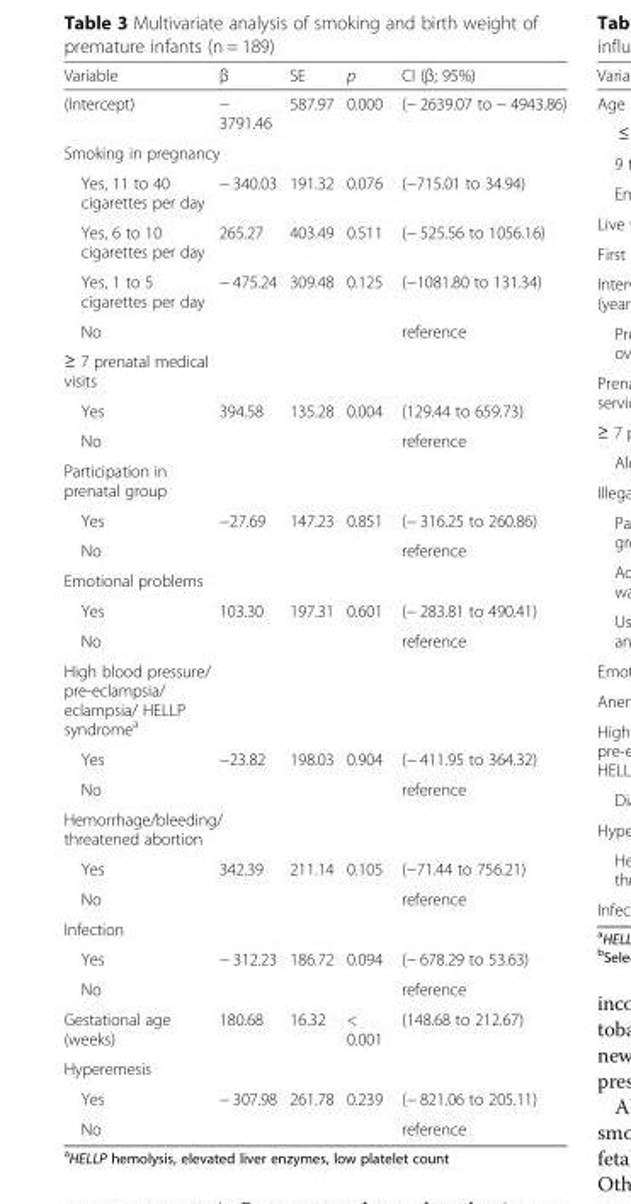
<table><thead><tr><td>Variable</td><td>β</td><td>SE</td><td>p</td><td>CI (β; 95%)</td></tr></thead><tbody><tr><td>(Intercept)</td><td>− 3791.46</td><td>587.97</td><td>0.000</td><td>(− 2639.07 to − 4943.86)</td></tr><tr><td colspan="5">Smoking in pregnancy</td></tr><tr><td>Yes, 11 to 40 cigarettes per day</td><td>− 340.03</td><td>191.32</td><td>0.076</td><td>(−715.01 to 34.94)</td></tr><tr><td>Yes, 6 to 10 cigarettes per day</td><td>265.27</td><td>403.49</td><td>0.511</td><td>(− 525.56 to 1056.16)</td></tr><tr><td>Yes, 1 to 5 cigarettes per day</td><td>− 475.24</td><td>309.48</td><td>0.125</td><td>(−1081.80 to 131.34)</td></tr><tr><td>No</td><td></td><td></td><td></td><td>reference</td></tr><tr><td colspan="5">≥ 7 prenatal medical visits</td></tr><tr><td>Yes</td><td>394.58</td><td>135.28</td><td>0.004</td><td>(129.44 to 659.73)</td></tr><tr><td>No</td><td></td><td></td><td></td><td>reference</td></tr><tr><td colspan="5">Participation in prenatal group</td></tr><tr><td>Yes</td><td>−27.69</td><td>147.23</td><td>0.851</td><td>(− 316.25 to 260.86)</td></tr><tr><td>No</td><td></td><td></td><td></td><td>reference</td></tr><tr><td colspan="5">Emotional problems</td></tr><tr><td>Yes</td><td>103.30</td><td>197.31</td><td>0.601</td><td>(− 283.81 to 490.41)</td></tr><tr><td>No</td><td></td><td></td><td></td><td>reference</td></tr><tr><td colspan="5">High blood pressure/ pre-eclampsia/ eclampsia/ HELLP syndrome<sup>a</sup></td></tr><tr><td>Yes</td><td>−23.82</td><td>198.03</td><td>0.904</td><td>(− 411.95 to 364.32)</td></tr><tr><td>No</td><td></td><td></td><td></td><td>reference</td></tr><tr><td colspan="5">Hemorrhage/bleeding/ threatened abortion</td></tr><tr><td>Yes</td><td>342.39</td><td>211.14</td><td>0.105</td><td>(−71.44 to 756.21)</td></tr><tr><td>No</td><td></td><td></td><td></td><td>reference</td></tr><tr><td colspan="5">Infection</td></tr><tr><td>Yes</td><td>− 312.23</td><td>186.72</td><td>0.094</td><td>(− 678.29 to 53.63)</td></tr><tr><td>No</td><td></td><td></td><td></td><td>reference</td></tr><tr><td>Gestational age (weeks)</td><td>180.68</td><td>16.32</td><td>&lt; 0.001</td><td>(148.68 to 212.67)</td></tr><tr><td colspan="5">Hyperemesis</td></tr><tr><td>Yes</td><td>− 307.98</td><td>261.78</td><td>0.239</td><td>(− 821.06 to 205.11)</td></tr><tr><td>No</td><td></td><td></td><td></td><td>reference</td></tr></tbody></table>